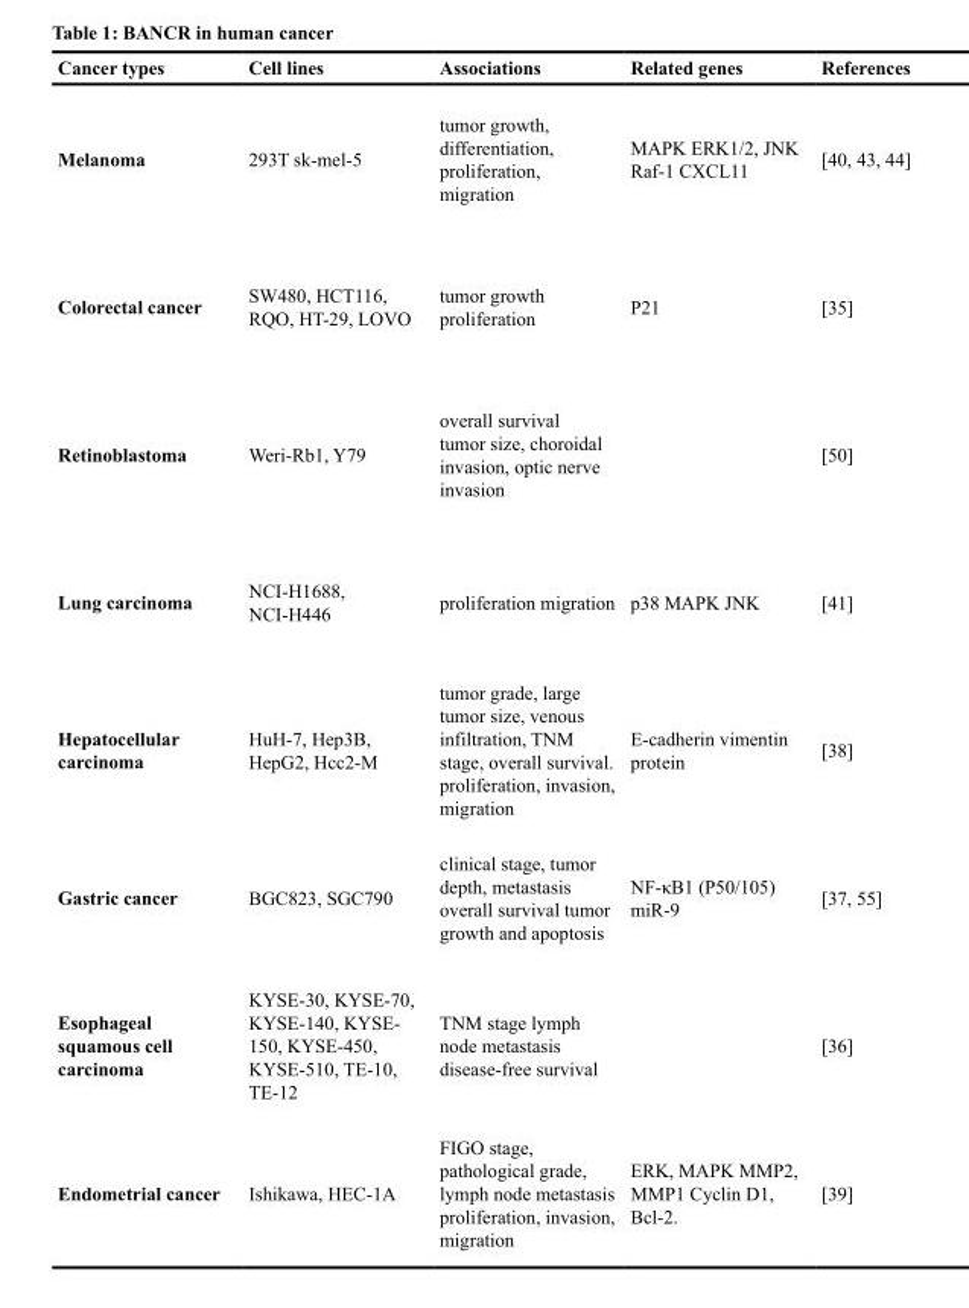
<table><thead><tr><td>Cancer types</td><td>Cell lines</td><td>Associations</td><td>Related genes</td><td>References</td></tr></thead><tbody><tr><td>Melanoma</td><td>293T sk-mel-5</td><td>tumor growth, differentiation, proliferation, migration</td><td>MAPK ERK1/2, JNK Raf-1 CXCL11</td><td>[40, 43, 44]</td></tr><tr><td>Colorectal cancer</td><td>SW480, HCT116, RQO, HT-29, LOVO</td><td>tumor growth proliferation</td><td>P21</td><td>[35]</td></tr><tr><td>Retinoblastoma</td><td>Weri-Rb1, Y79</td><td>overall survival tumor size, choroidal invasion, optic nerve invasion</td><td></td><td>[50]</td></tr><tr><td>Lung carcinoma</td><td>NCI-H1688, NCI-H446</td><td>proliferation migration</td><td>p38 MAPK JNK</td><td>[41]</td></tr><tr><td>Hepatocellular carcinoma</td><td>HuH-7, Hep3B, HepG2, Hcc2-M</td><td>tumor grade, large tumor size, venous infiltration, TNM stage, overall survival. proliferation, invasion, migration</td><td>E-cadherin vimentin protein</td><td>[38]</td></tr><tr><td>Gastric cancer</td><td>BGC823, SGC790</td><td>clinical stage, tumor depth, metastasis overall survival tumor growth and apoptosis</td><td>NF-κB1 (P50/105) miR-9</td><td>[37, 55]</td></tr><tr><td>Esophageal squamous cell carcinoma</td><td>KYSE-30, KYSE-70, KYSE-140, KYSE- 150, KYSE-450, KYSE-510, TE-10, TE-12</td><td>TNM stage lymph node metastasis disease-free survival</td><td></td><td>[36]</td></tr><tr><td>Endometrial cancer</td><td>Ishikawa, HEC-1A</td><td>FIGO stage, pathological grade, lymph node metastasis proliferation, invasion, migration</td><td>ERK, MAPK MMP2, MMP1 Cyclin D1, Bcl-2.</td><td>[39]</td></tr></tbody></table>